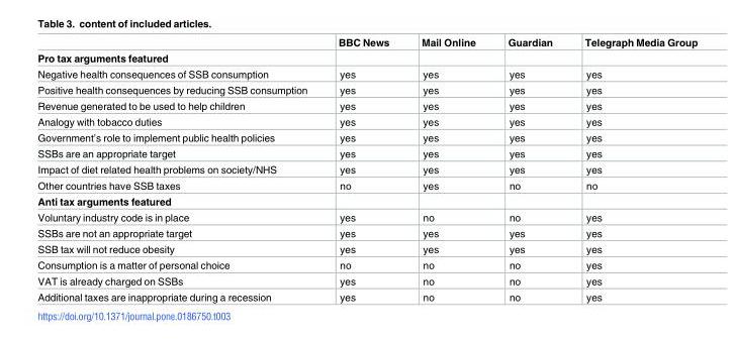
<table><thead><tr><td></td><td>BBC News</td><td>Mail Online</td><td>Guardian</td><td>Telegraph Media Group</td></tr></thead><tbody><tr><td colspan="5">Pro tax arguments featured</td></tr><tr><td>Negative health consequences of SSB consumption</td><td>yes</td><td>yes</td><td>yes</td><td>yes</td></tr><tr><td>Positive health consequences by reducing SSB consumption</td><td>yes</td><td>yes</td><td>yes</td><td>yes</td></tr><tr><td>Revenue generated to be used to help children</td><td>yes</td><td>yes</td><td>yes</td><td>yes</td></tr><tr><td>Analogy with tobacco duties</td><td>yes</td><td>yes</td><td>yes</td><td>yes</td></tr><tr><td>Government’s role to implement public health policies</td><td>yes</td><td>yes</td><td>yes</td><td>yes</td></tr><tr><td>SSBs are an appropriate target</td><td>yes</td><td>yes</td><td>yes</td><td>yes</td></tr><tr><td>Impact of diet related health problems on society/NHS</td><td>yes</td><td>yes</td><td>yes</td><td>yes</td></tr><tr><td>Other countries have SSB taxes</td><td>no</td><td>yes</td><td>no</td><td>no</td></tr><tr><td colspan="5">Anti tax arguments featured</td></tr><tr><td>Voluntary industry code is in place</td><td>yes</td><td>no</td><td>no</td><td>yes</td></tr><tr><td>SSBs are not an appropriate target</td><td>yes</td><td>yes</td><td>yes</td><td>yes</td></tr><tr><td>SSB tax will not reduce obesity</td><td>yes</td><td>yes</td><td>yes</td><td>yes</td></tr><tr><td>Consumption is a matter of personal choice</td><td>no</td><td>no</td><td>no</td><td>yes</td></tr><tr><td>VAT is already charged on SSBs</td><td>yes</td><td>no</td><td>no</td><td>yes</td></tr><tr><td>Additional taxes are inappropriate during a recession</td><td>yes</td><td>no</td><td>no</td><td>yes</td></tr></tbody></table>